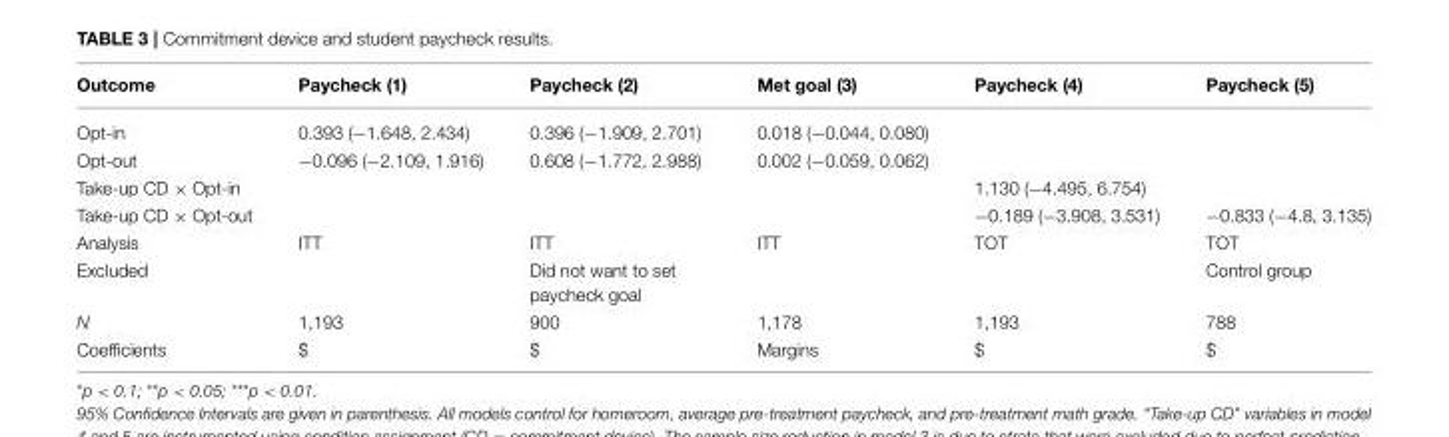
<table><thead><tr><td>Outcome</td><td>Paycheck (1)</td><td>Paycheck (2)</td><td>Met goal (3)</td><td>Paycheck (4)</td><td>Paycheck (5)</td></tr></thead><tbody><tr><td>Opt-in</td><td>0.393 (−1.648, 2.434)</td><td>0.396 (−1.909, 2.701)</td><td>0.018 (−0.044, 0.080)</td><td></td><td></td></tr><tr><td>Opt-out</td><td>−0.096 (−2.109, 1.916)</td><td>0.608 (−1.772, 2.988)</td><td>0.002 (−0.059, 0.062)</td><td></td><td></td></tr><tr><td>Take-up CD × Opt-in</td><td></td><td></td><td></td><td>1.130 (−4.495, 6.754)</td><td></td></tr><tr><td>Take-up CD × Opt-out</td><td></td><td></td><td></td><td>−0.189 (−3.908, 3.531)</td><td>−0.833 (−4.8, 3.135)</td></tr><tr><td>Analysis</td><td>ITT</td><td>ITT</td><td>ITT</td><td>TOT</td><td>TOT</td></tr><tr><td>Excluded</td><td></td><td>Did not want to set paycheck goal</td><td></td><td></td><td>Control group</td></tr><tr><td>N</td><td>1,193</td><td>900</td><td>1,178</td><td>1,193</td><td>788</td></tr><tr><td>Coefficients</td><td>$</td><td>$</td><td>Margins</td><td>$</td><td>$</td></tr></tbody></table>